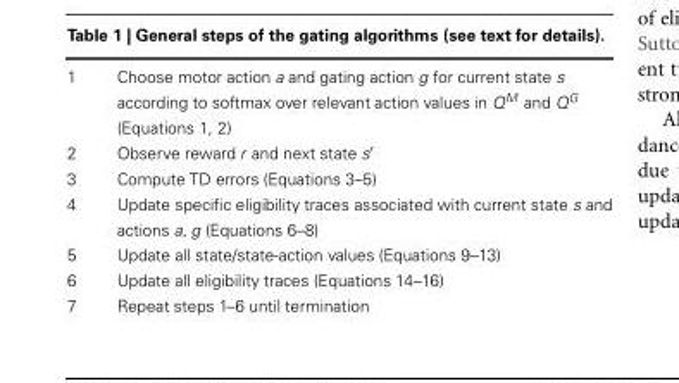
<table><tbody><tr><td>1</td><td>Choose motor action a and gating action g for current state s according to softmax over relevant action values in Q<sup>M</sup> and Q<sup>G</sup> (Equations 1, 2)</td></tr><tr><td>2</td><td>Observe reward r and next state s′</td></tr><tr><td>3</td><td>Compute TD errors (Equations 3–5)</td></tr><tr><td>4</td><td>Update specific eligibility traces associated with current state s and actions a, g (Equations 6–8)</td></tr><tr><td>5</td><td>Update all state/state-action values (Equations 9–13)</td></tr><tr><td>6</td><td>Update all eligibility traces (Equations 14–16)</td></tr><tr><td>7</td><td>Repeat steps 1–6 until termination</td></tr></tbody></table>